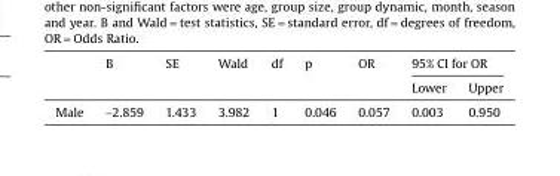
<table><thead><tr><td rowspan="2"></td><td rowspan="2">B</td><td rowspan="2">SE</td><td rowspan="2">Wald</td><td rowspan="2">df</td><td rowspan="2">p</td><td rowspan="2">OR</td><td colspan="2">95% CI for OR</td></tr><tr><td>Lower</td><td>Upper</td></tr></thead><tbody><tr><td>Male</td><td>−2.859</td><td>1.433</td><td>3.982</td><td>1</td><td>0.046</td><td>0.057</td><td>0.003</td><td>0.950</td></tr></tbody></table>